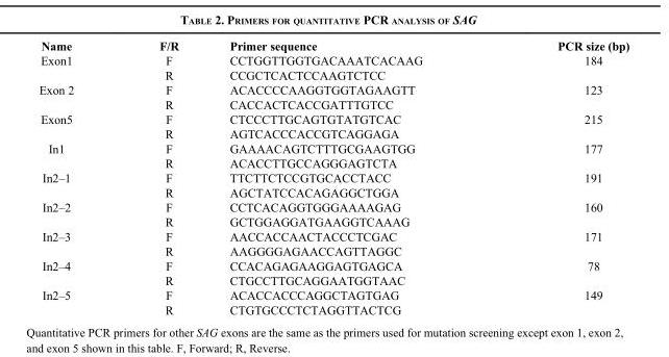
<table><thead><tr><td>Name</td><td>F/R</td><td>Primer sequence</td><td>PCR size (bp)</td></tr></thead><tbody><tr><td rowspan="2">Exon1</td><td>F</td><td>CCTGGTTGGTGACAAATCACAAG</td><td>184</td></tr><tr><td>R</td><td>CCGCTCACTCCAAGTCTCC</td><td></td></tr><tr><td rowspan="2">Exon 2</td><td>F</td><td>ACACCCCAAGGTGGTAGAAGTT</td><td>123</td></tr><tr><td>R</td><td>CACCACTCACCGATTTGTCC</td><td></td></tr><tr><td rowspan="2">Exon5</td><td>F</td><td>CTCCCTTGCAGTGTATGTCAC</td><td>215</td></tr><tr><td>R</td><td>AGTCACCCACCGTCAGGAGA</td><td></td></tr><tr><td rowspan="2">In1</td><td>F</td><td>GAAAACAGTCTTTGCGAAGTGG</td><td>177</td></tr><tr><td>R</td><td>ACACCTTGCCAGGGAGTCTA</td><td></td></tr><tr><td rowspan="2">In2–1</td><td>F</td><td>TTCTTCTCCGTGCACCTACC</td><td>191</td></tr><tr><td>R</td><td>AGCTATCCACAGAGGCTGGA</td><td></td></tr><tr><td rowspan="2">In2–2</td><td>F</td><td>CCTCACAGGTGGGAAAAGAG</td><td>160</td></tr><tr><td>R</td><td>GCTGGAGGATGAAGGTCAAAG</td><td></td></tr><tr><td rowspan="2">In2–3</td><td>F</td><td>AACCACCAACTACCCTCGAC</td><td>171</td></tr><tr><td>R</td><td>AAGGGGAGAACCAGTTAGGC</td><td></td></tr><tr><td rowspan="2">In2–4</td><td>F</td><td>CCACAGAGAAGGAGTGAGCA</td><td>78</td></tr><tr><td>R</td><td>CTGCCTTGCAGGAATGGTAAC</td><td></td></tr><tr><td rowspan="2">In2–5</td><td>F</td><td>ACACCACCCAGGCTAGTGAG</td><td>149</td></tr><tr><td>R</td><td>CTGTGCCCTCTAGGTTACTCG</td><td></td></tr></tbody></table>